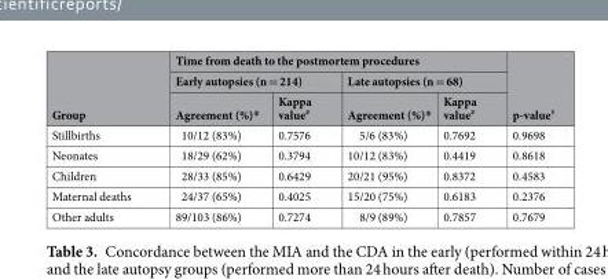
<table><thead><tr><td rowspan="3">Group</td><td colspan="4">Time from death to the postmortem procedures</td><td rowspan="3">p-value<sup>†</sup></td></tr><tr><td colspan="2">Early autopsies (n = 214)</td><td colspan="2">Late autopsies (n = 68)</td></tr><tr><td>Agreement (%)*</td><td>Kappa value<sup>#</sup></td><td>Agreement (%)*</td><td>Kappa value<sup>#</sup></td></tr></thead><tbody><tr><td>Stillbirths</td><td>10/12 (83%)</td><td>0.7576</td><td>5/6 (83%)</td><td>0.7692</td><td>0.9698</td></tr><tr><td>Neonates</td><td>18/29 (62%)</td><td>0.3794</td><td>10/12 (83%)</td><td>0.4419</td><td>0.8618</td></tr><tr><td>Children</td><td>28/33 (85%)</td><td>0.6429</td><td>20/21 (95%)</td><td>0.8372</td><td>0.4583</td></tr><tr><td>Maternal deaths</td><td>24/37 (65%)</td><td>0.4025</td><td>15/20 (75%)</td><td>0.6183</td><td>0.2376</td></tr><tr><td>Other adults</td><td>89/103 (86%)</td><td>0.7274</td><td>8/9 (89%)</td><td>0.7857</td><td>0.7679</td></tr></tbody></table>